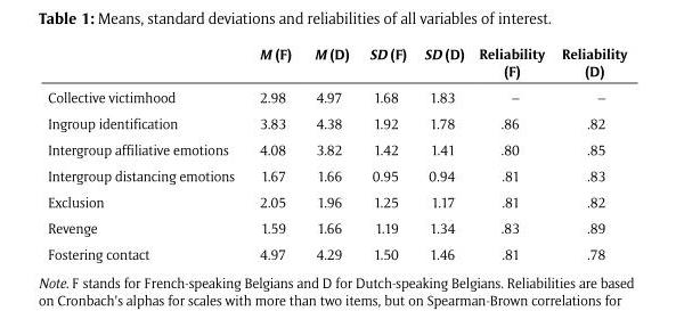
<table><thead><tr><td></td><td>M (F)</td><td>M (D)</td><td>SD (F)</td><td>SD (D)</td><td>Reliability (F)</td><td>Reliability (D)</td></tr></thead><tbody><tr><td>Collective victimhood</td><td>2.98</td><td>4.97</td><td>1.68</td><td>1.83</td><td>–</td><td>–</td></tr><tr><td>Ingroup identification</td><td>3.83</td><td>4.38</td><td>1.92</td><td>1.78</td><td>.86</td><td>.82</td></tr><tr><td>Intergroup affiliative emotions</td><td>4.08</td><td>3.82</td><td>1.42</td><td>1.41</td><td>.80</td><td>.85</td></tr><tr><td>Intergroup distancing emotions</td><td>1.67</td><td>1.66</td><td>0.95</td><td>0.94</td><td>.81</td><td>.83</td></tr><tr><td>Exclusion</td><td>2.05</td><td>1.96</td><td>1.25</td><td>1.17</td><td>.81</td><td>.82</td></tr><tr><td>Revenge</td><td>1.59</td><td>1.66</td><td>1.19</td><td>1.34</td><td>.83</td><td>.89</td></tr><tr><td>Fostering contact</td><td>4.97</td><td>4.29</td><td>1.50</td><td>1.46</td><td>.81</td><td>.78</td></tr></tbody></table>